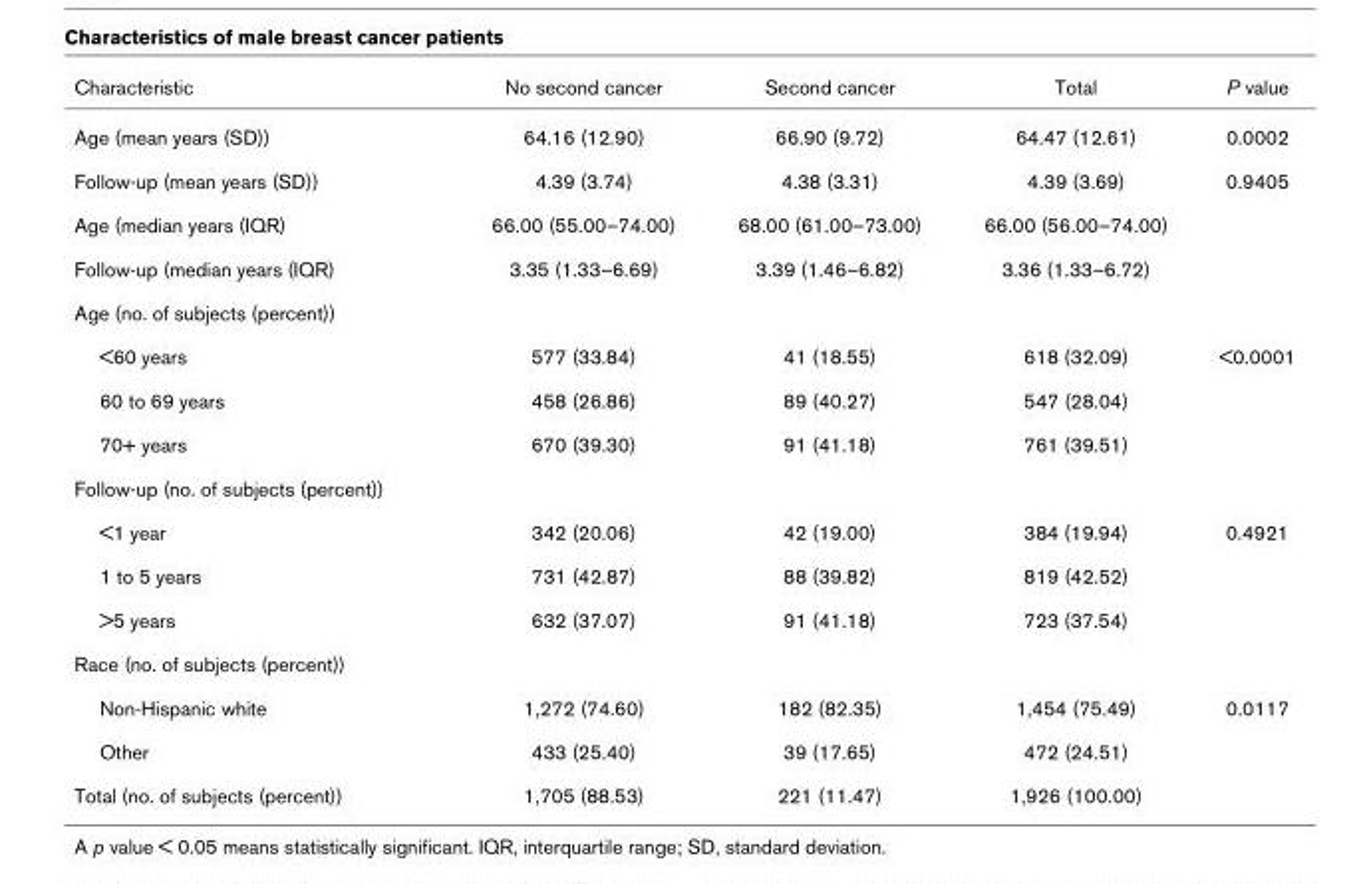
<table><thead><tr><td>Characteristic</td><td>No second cancer</td><td>Second cancer</td><td>Total</td><td>P value</td></tr></thead><tbody><tr><td>Age (mean years (SD))</td><td>64.16 (12.90)</td><td>66.90 (9.72)</td><td>64.47 (12.61)</td><td>0.0002</td></tr><tr><td>Follow-up (mean years (SD))</td><td>4.39 (3.74)</td><td>4.38 (3.31)</td><td>4.39 (3.69)</td><td>0.9405</td></tr><tr><td>Age (median years (IQR)</td><td>66.00 (55.00–74.00)</td><td>68.00 (61.00–73.00)</td><td>66.00 (56.00–74.00)</td><td></td></tr><tr><td>Follow-up (median years (IQR)</td><td>3.35 (1.33–6.69)</td><td>3.39 (1.46–6.82)</td><td>3.36 (1.33–6.72)</td><td></td></tr><tr><td colspan="5">Age (no. of subjects (percent))</td></tr><tr><td>&lt;60 years</td><td>577 (33.84)</td><td>41 (18.55)</td><td>618 (32.09)</td><td>&lt;0.0001</td></tr><tr><td>60 to 69 years</td><td>458 (26.86)</td><td>89 (40.27)</td><td>547 (28.04)</td><td></td></tr><tr><td>70+ years</td><td>670 (39.30)</td><td>91 (41.18)</td><td>761 (39.51)</td><td></td></tr><tr><td colspan="5">Follow-up (no. of subjects (percent))</td></tr><tr><td>&lt;1 year</td><td>342 (20.06)</td><td>42 (19.00)</td><td>384 (19.94)</td><td>0.4921</td></tr><tr><td>1 to 5 years</td><td>731 (42.87)</td><td>88 (39.82)</td><td>819 (42.52)</td><td></td></tr><tr><td>&gt;5 years</td><td>632 (37.07)</td><td>91 (41.18)</td><td>723 (37.54)</td><td></td></tr><tr><td colspan="5">Race (no. of subjects (percent))</td></tr><tr><td>Non-Hispanic white</td><td>1,272 (74.60)</td><td>182 (82.35)</td><td>1,454 (75.49)</td><td>0.0117</td></tr><tr><td>Other</td><td>433 (25.40)</td><td>39 (17.65)</td><td>472 (24.51)</td><td></td></tr><tr><td>Total (no. of subjects (percent))</td><td>1,705 (88.53)</td><td>221 (11.47)</td><td>1,926 (100.00)</td><td></td></tr></tbody></table>